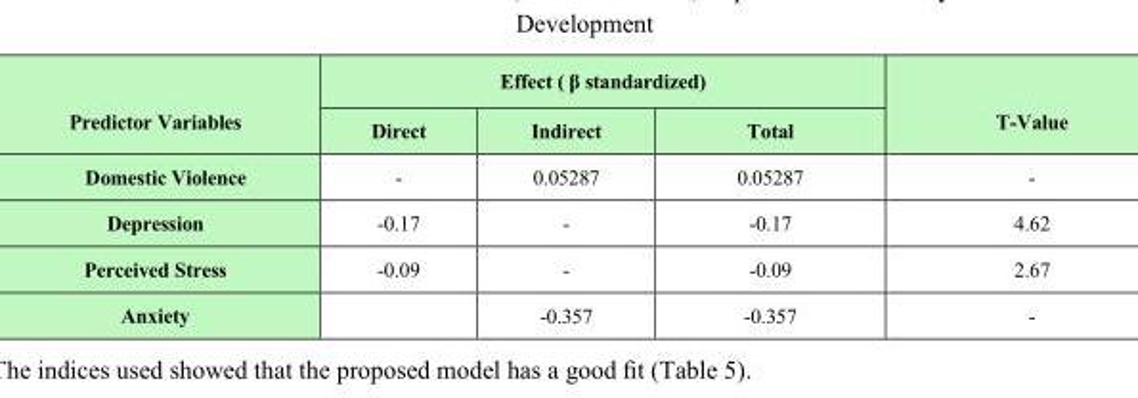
<table><thead><tr><td rowspan="2">Predictor Variables</td><td colspan="3">Effect ( β standardized)</td><td rowspan="2">T-Value</td></tr><tr><td>Direct</td><td>Indirect</td><td>Total</td></tr></thead><tbody><tr><td>Domestic Violence</td><td>-</td><td>0.05287</td><td>0.05287</td><td>-</td></tr><tr><td>Depression</td><td>-0.17</td><td>-</td><td>-0.17</td><td>4.62</td></tr><tr><td>Perceived Stress</td><td>-0.09</td><td>-</td><td>-0.09</td><td>2.67</td></tr><tr><td>Anxiety</td><td></td><td>-0.357</td><td>-0.357</td><td>-</td></tr></tbody></table>